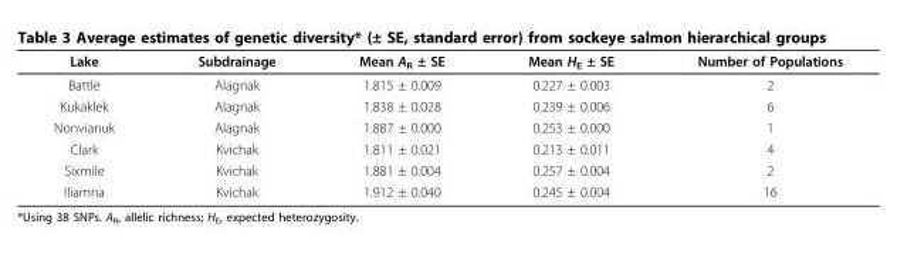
<table><thead><tr><td>Lake</td><td>Subdrainage</td><td>Mean A<sub>R</sub> ± SE</td><td>Mean H<sub>E</sub> ± SE</td><td>Number of Populations</td></tr></thead><tbody><tr><td>Battle</td><td>Alagnak</td><td>1.815 ± 0.009</td><td>0.227 ± 0.003</td><td>2</td></tr><tr><td>Kukaklek</td><td>Alagnak</td><td>1.838 ± 0.028</td><td>0.239 ± 0.006</td><td>6</td></tr><tr><td>Nonvianuk</td><td>Alagnak</td><td>1.887 ± 0.000</td><td>0.253 ± 0.000</td><td>1</td></tr><tr><td>Clark</td><td>Kvichak</td><td>1.811 ± 0.021</td><td>0.213 ± 0.011</td><td>4</td></tr><tr><td>Sixmile</td><td>Kvichak</td><td>1.881 ± 0.004</td><td>0.257 ± 0.004</td><td>2</td></tr><tr><td>Iliamna</td><td>Kvichak</td><td>1.912 ± 0.040</td><td>0.245 ± 0.004</td><td>16</td></tr></tbody></table>